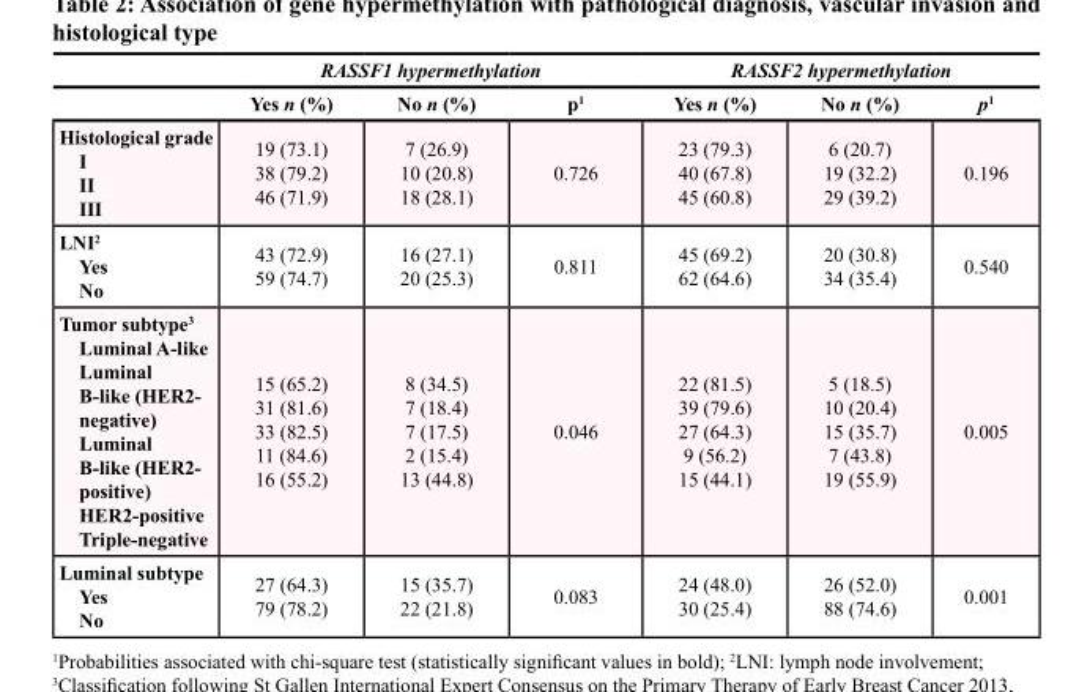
<table><thead><tr><td rowspan="2"></td><td colspan="3">RASSF1 hypermethylation</td><td colspan="3">RASSF2 hypermethylation</td></tr><tr><td>Yes n (%)</td><td>No n (%)</td><td>p<sup>1</sup></td><td>Yes n (%)</td><td>No n (%)</td><td>p<sup>1</sup></td></tr></thead><tbody><tr><td>Histological grade I II III</td><td>19 (73.1) 38 (79.2) 46 (71.9)</td><td>7 (26.9) 10 (20.8) 18 (28.1)</td><td>0.726</td><td>23 (79.3) 40 (67.8) 45 (60.8)</td><td>6 (20.7) 19 (32.2) 29 (39.2)</td><td>0.196</td></tr><tr><td>LNI<sup>2</sup> Yes No</td><td>43 (72.9) 59 (74.7)</td><td>16 (27.1) 20 (25.3)</td><td>0.811</td><td>45 (69.2) 62 (64.6)</td><td>20 (30.8) 34 (35.4)</td><td>0.540</td></tr><tr><td>Tumor subtype<sup>3</sup> Luminal A-like Luminal B-like (HER2- negative) Luminal B-like (HER2- positive) HER2-positive Triple-negative</td><td>15 (65.2) 31 (81.6) 33 (82.5) 11 (84.6) 16 (55.2)</td><td>8 (34.5) 7 (18.4) 7 (17.5) 2 (15.4) 13 (44.8)</td><td>0.046</td><td>22 (81.5) 39 (79.6) 27 (64.3) 9 (56.2) 15 (44.1)</td><td>5 (18.5) 10 (20.4) 15 (35.7) 7 (43.8) 19 (55.9)</td><td>0.005</td></tr><tr><td>Luminal subtype Yes No</td><td>27 (64.3) 79 (78.2)</td><td>15 (35.7) 22 (21.8)</td><td>0.083</td><td>24 (48.0) 30 (25.4)</td><td>26 (52.0) 88 (74.6)</td><td>0.001</td></tr></tbody></table>